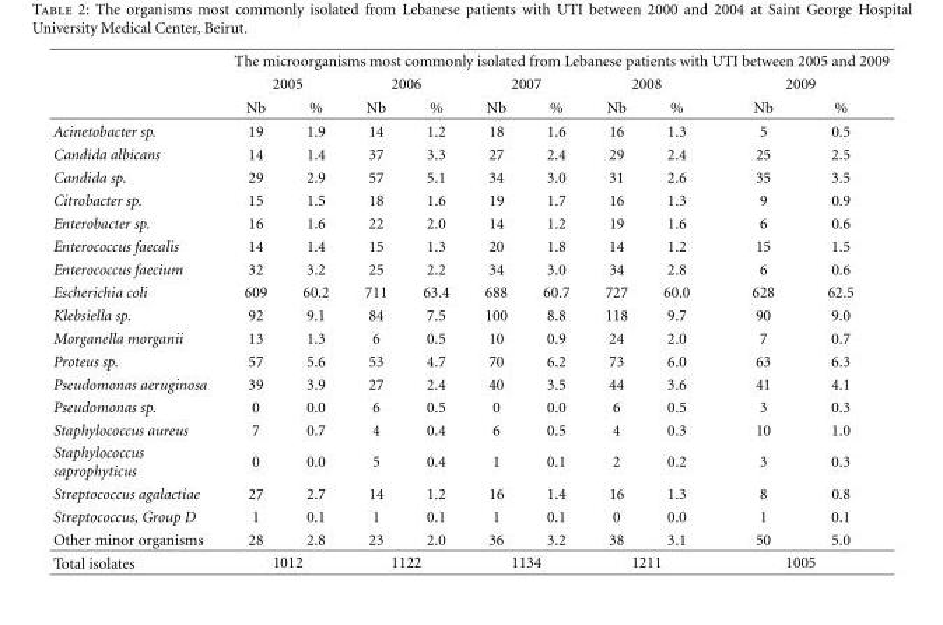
<table><thead><tr><td rowspan="3"></td><td colspan="10">The microorganisms most commonly isolated from Lebanese patients with UTI between 2005 and 2009</td></tr><tr><td colspan="2">2005</td><td colspan="2">2006</td><td colspan="2">2007</td><td colspan="2">2008</td><td colspan="2">2009</td></tr><tr><td>Nb</td><td>%</td><td>Nb</td><td>%</td><td>Nb</td><td>%</td><td>Nb</td><td>%</td><td>Nb</td><td>%</td></tr></thead><tbody><tr><td>Acinetobacter sp.</td><td>19</td><td>1.9</td><td>14</td><td>1.2</td><td>18</td><td>1.6</td><td>16</td><td>1.3</td><td>5</td><td>0.5</td></tr><tr><td>Candida albicans</td><td>14</td><td>1.4</td><td>37</td><td>3.3</td><td>27</td><td>2.4</td><td>29</td><td>2.4</td><td>25</td><td>2.5</td></tr><tr><td>Candida sp.</td><td>29</td><td>2.9</td><td>57</td><td>5.1</td><td>34</td><td>3.0</td><td>31</td><td>2.6</td><td>35</td><td>3.5</td></tr><tr><td>Citrobacter sp.</td><td>15</td><td>1.5</td><td>18</td><td>1.6</td><td>19</td><td>1.7</td><td>16</td><td>1.3</td><td>9</td><td>0.9</td></tr><tr><td>Enterobacter sp.</td><td>16</td><td>1.6</td><td>22</td><td>2.0</td><td>14</td><td>1.2</td><td>19</td><td>1.6</td><td>6</td><td>0.6</td></tr><tr><td>Enterococcus faecalis</td><td>14</td><td>1.4</td><td>15</td><td>1.3</td><td>20</td><td>1.8</td><td>14</td><td>1.2</td><td>15</td><td>1.5</td></tr><tr><td>Enterococcus faecium</td><td>32</td><td>3.2</td><td>25</td><td>2.2</td><td>34</td><td>3.0</td><td>34</td><td>2.8</td><td>6</td><td>0.6</td></tr><tr><td>Escherichia coli</td><td>609</td><td>60.2</td><td>711</td><td>63.4</td><td>688</td><td>60.7</td><td>727</td><td>60.0</td><td>628</td><td>62.5</td></tr><tr><td>Klebsiella sp.</td><td>92</td><td>9.1</td><td>84</td><td>7.5</td><td>100</td><td>8.8</td><td>118</td><td>9.7</td><td>90</td><td>9.0</td></tr><tr><td>Morganella morganii</td><td>13</td><td>1.3</td><td>6</td><td>0.5</td><td>10</td><td>0.9</td><td>24</td><td>2.0</td><td>7</td><td>0.7</td></tr><tr><td>Proteus sp.</td><td>57</td><td>5.6</td><td>53</td><td>4.7</td><td>70</td><td>6.2</td><td>73</td><td>6.0</td><td>63</td><td>6.3</td></tr><tr><td>Pseudomonas aeruginosa</td><td>39</td><td>3.9</td><td>27</td><td>2.4</td><td>40</td><td>3.5</td><td>44</td><td>3.6</td><td>41</td><td>4.1</td></tr><tr><td>Pseudomonas sp.</td><td>0</td><td>0.0</td><td>6</td><td>0.5</td><td>0</td><td>0.0</td><td>6</td><td>0.5</td><td>3</td><td>0.3</td></tr><tr><td>Staphylococcus aureus</td><td>7</td><td>0.7</td><td>4</td><td>0.4</td><td>6</td><td>0.5</td><td>4</td><td>0.3</td><td>10</td><td>1.0</td></tr><tr><td>Staphylococcus saprophyticus</td><td>0</td><td>0.0</td><td>5</td><td>0.4</td><td>1</td><td>0.1</td><td>2</td><td>0.2</td><td>3</td><td>0.3</td></tr><tr><td>Streptococcus agalactiae</td><td>27</td><td>2.7</td><td>14</td><td>1.2</td><td>16</td><td>1.4</td><td>16</td><td>1.3</td><td>8</td><td>0.8</td></tr><tr><td>Streptococcus, Group D</td><td>1</td><td>0.1</td><td>1</td><td>0.1</td><td>1</td><td>0.1</td><td>0</td><td>0.0</td><td>1</td><td>0.1</td></tr><tr><td>Other minor organisms</td><td>28</td><td>2.8</td><td>23</td><td>2.0</td><td>36</td><td>3.2</td><td>38</td><td>3.1</td><td>50</td><td>5.0</td></tr><tr><td>Total isolates</td><td colspan="2">1012</td><td colspan="2">1122</td><td colspan="2">1134</td><td colspan="2">1211</td><td colspan="2">1005</td></tr></tbody></table>